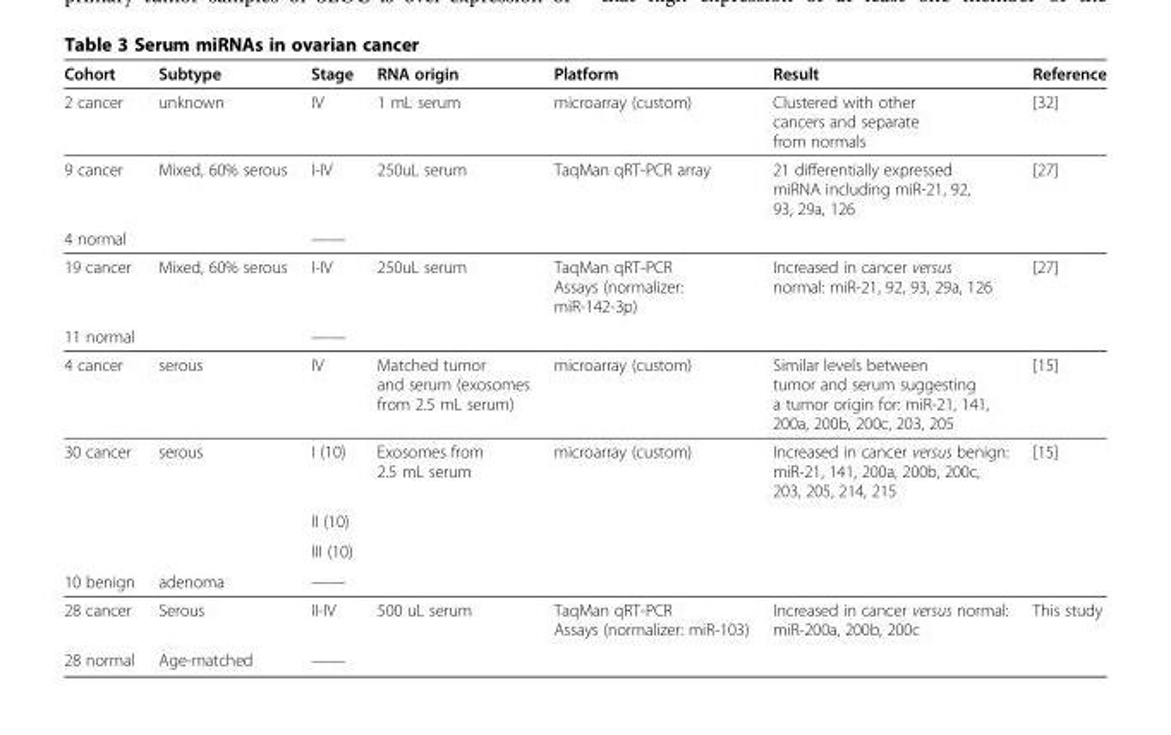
<table><thead><tr><td>Cohort</td><td>Subtype</td><td>Stage</td><td>RNA origin</td><td>Platform</td><td>Result</td><td>Reference</td></tr></thead><tbody><tr><td>2 cancer</td><td>unknown</td><td>IV</td><td>1 mL serum</td><td>microarray (custom)</td><td>Clustered with other cancers and separate from normals</td><td>[32]</td></tr><tr><td>9 cancer</td><td>Mixed, 60% serous</td><td>I-IV</td><td>250uL serum</td><td>TaqMan qRT-PCR array</td><td>21 differentially expressed miRNA including miR-21, 92, 93, 29a, 126</td><td>[27]</td></tr><tr><td>4 normal</td><td></td><td>——</td><td></td><td></td><td></td><td></td></tr><tr><td>19 cancer</td><td>Mixed, 60% serous</td><td>I-IV</td><td>250uL serum</td><td>TaqMan qRT-PCR Assays (normalizer: miR-142-3p)</td><td>Increased in cancer versus normal: miR-21, 92, 93, 29a, 126</td><td>[27]</td></tr><tr><td>11 normal</td><td></td><td>——</td><td></td><td></td><td></td><td></td></tr><tr><td>4 cancer</td><td>serous</td><td>IV</td><td>Matched tumor and serum (exosomes from 2.5 mL serum)</td><td>microarray (custom)</td><td>Similar levels between tumor and serum suggesting a tumor origin for: miR-21, 141, 200a, 200b, 200c, 203, 205</td><td>[15]</td></tr><tr><td rowspan="3">30 cancer</td><td>serous</td><td>I (10)</td><td>Exosomes from 2.5 mL serum</td><td>microarray (custom)</td><td>Increased in cancer versus benign: miR-21, 141, 200a, 200b, 200c, 203, 205, 214, 215</td><td>[15]</td></tr><tr><td></td><td>II (10)</td><td></td><td></td><td></td><td></td></tr><tr><td></td><td>III (10)</td><td></td><td></td><td></td><td></td></tr><tr><td>10 benign</td><td>adenoma</td><td>——</td><td></td><td></td><td></td><td></td></tr><tr><td>28 cancer</td><td>Serous</td><td>II-IV</td><td>500 uL serum</td><td>TaqMan qRT-PCR Assays (normalizer: miR-103)</td><td>Increased in cancer versus normal: miR-200a, 200b, 200c</td><td>This study</td></tr><tr><td>28 normal</td><td>Age-matched</td><td>——</td><td></td><td></td><td></td><td></td></tr></tbody></table>